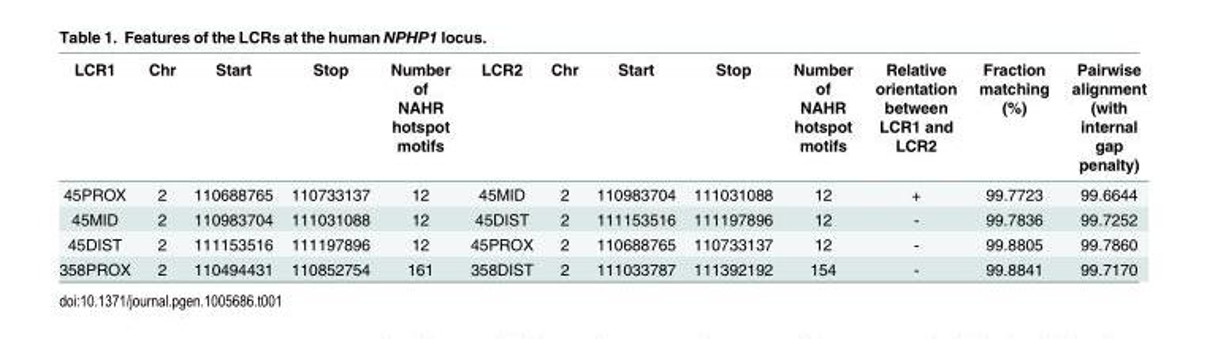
<table><thead><tr><td>LCR1</td><td>Chr</td><td>Start</td><td>Stop</td><td>Number of NAHR hotspot motifs</td><td>LCR2</td><td>Chr</td><td>Start</td><td>Stop</td><td>Number of NAHR hotspot motifs</td><td>Relative orientation between LCR1 and LCR2</td><td>Fraction matching (%)</td><td>Pairwise alignment (with internal gap penalty)</td></tr></thead><tbody><tr><td>45PROX</td><td>2</td><td>110688765</td><td>110733137</td><td>12</td><td>45MID</td><td>2</td><td>110983704</td><td>111031088</td><td>12</td><td>+</td><td>99.7723</td><td>99.6644</td></tr><tr><td>45MID</td><td>2</td><td>110983704</td><td>111031088</td><td>12</td><td>45DIST</td><td>2</td><td>111153516</td><td>111197896</td><td>12</td><td>-</td><td>99.7836</td><td>99.7252</td></tr><tr><td>45DIST</td><td>2</td><td>111153516</td><td>111197896</td><td>12</td><td>45PROX</td><td>2</td><td>110688765</td><td>110733137</td><td>12</td><td>-</td><td>99.8805</td><td>99.7860</td></tr><tr><td>358PROX</td><td>2</td><td>110494431</td><td>110852754</td><td>161</td><td>358DIST</td><td>2</td><td>111033787</td><td>111392192</td><td>154</td><td>-</td><td>99.8841</td><td>99.7170</td></tr></tbody></table>